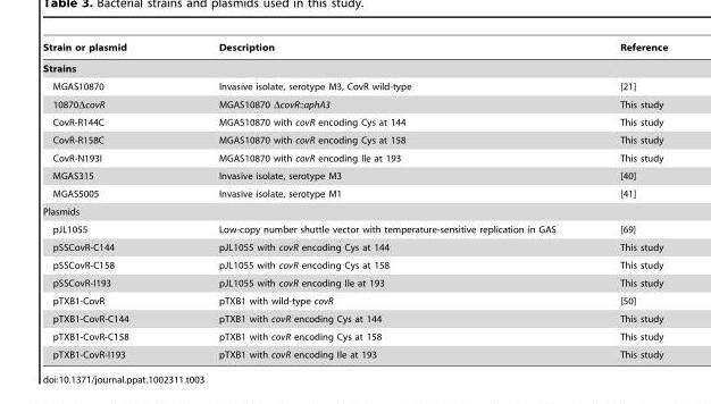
<table><thead><tr><td>Strain or plasmid</td><td>Description</td><td>Reference</td></tr></thead><tbody><tr><td colspan="3">Strains</td></tr><tr><td>MGAS10870</td><td>Invasive isolate, serotype M3, CovR wild-type</td><td>[21]</td></tr><tr><td>10870ΔcovR</td><td>MGAS10870 ΔcovR::aphA3</td><td>This study</td></tr><tr><td>CovR-R144C</td><td>MGAS10870 with covR encoding Cys at 144</td><td>This study</td></tr><tr><td>CovR-R158C</td><td>MGAS10870 with covR encoding Cys at 158</td><td>This study</td></tr><tr><td>CovR-N193I</td><td>MGAS10870 with covR encoding Ile at 193</td><td>This study</td></tr><tr><td>MGAS315</td><td>Invasive isolate, serotype M3</td><td>[40]</td></tr><tr><td>MGAS5005</td><td>Invasive isolate, serotype M1</td><td>[41]</td></tr><tr><td colspan="3">Plasmids</td></tr><tr><td>pJL1055</td><td>Low-copy number shuttle vector with temperature-sensitive replication in GAS</td><td>[69]</td></tr><tr><td>pSSCovR-C144</td><td>pJL1055 with covR encoding Cys at 144</td><td>This study</td></tr><tr><td>pSSCovR-C158</td><td>pJL1055 with covR encoding Cys at 158</td><td>This study</td></tr><tr><td>pSSCovR-I193</td><td>pJL1055 with covR encoding Ile at 193</td><td>This study</td></tr><tr><td>pTXB1-CovR</td><td>pTXB1 with wild-type covR</td><td>[50]</td></tr><tr><td>pTXB1-CovR-C144</td><td>pTXB1 with covR encoding Cys at 144</td><td>This study</td></tr><tr><td>pTXB1-CovR-C158</td><td>pTXB1 with covR encoding Cys at 158</td><td>This study</td></tr><tr><td>pTXB1-CovR-I193</td><td>pTXB1 with covR encoding Ile at 193</td><td>This study</td></tr></tbody></table>